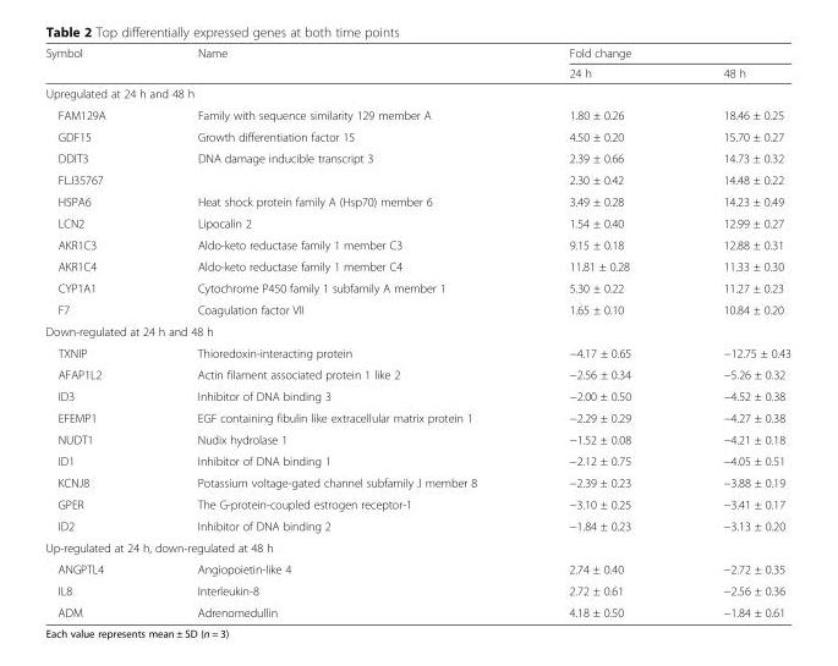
<table><thead><tr><td rowspan="2">Symbol</td><td rowspan="2">Name</td><td colspan="2">Fold change</td></tr><tr><td>24 h</td><td>48 h</td></tr></thead><tbody><tr><td colspan="4">Upregulated at 24 h and 48 h</td></tr><tr><td>FAM129A</td><td>Family with sequence similarity 129 member A</td><td>1.80 ± 0.26</td><td>18.46 ± 0.25</td></tr><tr><td>GDF15</td><td>Growth differentiation factor 15</td><td>4.50 ± 0.20</td><td>15.70 ± 0.27</td></tr><tr><td>DDIT3</td><td>DNA damage inducible transcript 3</td><td>2.39 ± 0.66</td><td>14.73 ± 0.32</td></tr><tr><td>FLJ35767</td><td></td><td>2.30 ± 0.42</td><td>14.48 ± 0.22</td></tr><tr><td>HSPA6</td><td>Heat shock protein family A (Hsp70) member 6</td><td>3.49 ± 0.28</td><td>14.23 ± 0.49</td></tr><tr><td>LCN2</td><td>Lipocalin 2</td><td>1.54 ± 0.40</td><td>12.99 ± 0.27</td></tr><tr><td>AKR1C3</td><td>Aldo-keto reductase family 1 member C3</td><td>9.15 ± 0.18</td><td>12.88 ± 0.31</td></tr><tr><td>AKR1C4</td><td>Aldo-keto reductase family 1 member C4</td><td>11.81 ± 0.28</td><td>11.33 ± 0.30</td></tr><tr><td>CYP1A1</td><td>Cytochrome P450 family 1 subfamily A member 1</td><td>5.30 ± 0.22</td><td>11.27 ± 0.23</td></tr><tr><td>F7</td><td>Coagulation factor VII</td><td>1.65 ± 0.10</td><td>10.84 ± 0.20</td></tr><tr><td colspan="4">Down-regulated at 24 h and 48 h</td></tr><tr><td>TXNIP</td><td>Thioredoxin-interacting protein</td><td>−4.17 ± 0.65</td><td>−12.75 ± 0.43</td></tr><tr><td>AFAP1L2</td><td>Actin filament associated protein 1 like 2</td><td>−2.56 ± 0.34</td><td>−5.26 ± 0.32</td></tr><tr><td>ID3</td><td>Inhibitor of DNA binding 3</td><td>−2.00 ± 0.50</td><td>−4.52 ± 0.38</td></tr><tr><td>EFEMP1</td><td>EGF containing fibulin like extracellular matrix protein 1</td><td>−2.29 ± 0.29</td><td>−4.27 ± 0.38</td></tr><tr><td>NUDT1</td><td>Nudix hydrolase 1</td><td>−1.52 ± 0.08</td><td>−4.21 ± 0.18</td></tr><tr><td>ID1</td><td>Inhibitor of DNA binding 1</td><td>−2.12 ± 0.75</td><td>−4.05 ± 0.51</td></tr><tr><td>KCNJ8</td><td>Potassium voltage-gated channel subfamily J member 8</td><td>−2.39 ± 0.23</td><td>−3.88 ± 0.19</td></tr><tr><td>GPER</td><td>The G-protein-coupled estrogen receptor-1</td><td>−3.10 ± 0.25</td><td>−3.41 ± 0.17</td></tr><tr><td>ID2</td><td>Inhibitor of DNA binding 2</td><td>−1.84 ± 0.23</td><td>−3.13 ± 0.20</td></tr><tr><td colspan="4">Up-regulated at 24 h, down-regulated at 48 h</td></tr><tr><td>ANGPTL4</td><td>Angiopoietin-like 4</td><td>2.74 ± 0.40</td><td>−2.72 ± 0.35</td></tr><tr><td>IL8</td><td>Interleukin-8</td><td>2.72 ± 0.61</td><td>−2.56 ± 0.36</td></tr><tr><td>ADM</td><td>Adrenomedullin</td><td>4.18 ± 0.50</td><td>−1.84 ± 0.61</td></tr></tbody></table>